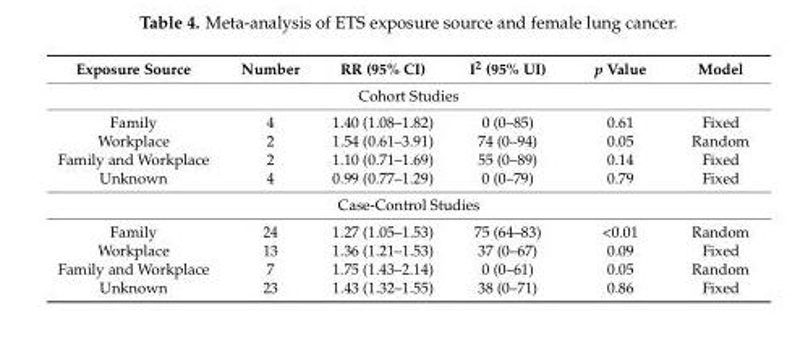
<table><thead><tr><td>Exposure Source</td><td>Number</td><td>RR (95% CI)</td><td>I<sup>2</sup> (95% UI)</td><td>p Value</td><td>Model</td></tr></thead><tbody><tr><td colspan="6">Cohort Studies</td></tr><tr><td>Family</td><td>4</td><td>1.40 (1.08–1.82)</td><td>0 (0–85)</td><td>0.61</td><td>Fixed</td></tr><tr><td>Workplace</td><td>2</td><td>1.54 (0.61–3.91)</td><td>74 (0–94)</td><td>0.05</td><td>Random</td></tr><tr><td>Family and Workplace</td><td>2</td><td>1.10 (0.71–1.69)</td><td>55 (0–89)</td><td>0.14</td><td>Fixed</td></tr><tr><td>Unknown</td><td>4</td><td>0.99 (0.77–1.29)</td><td>0 (0–79)</td><td>0.79</td><td>Fixed</td></tr><tr><td colspan="6">Case-Control Studies</td></tr><tr><td>Family</td><td>24</td><td>1.27 (1.05–1.53)</td><td>75 (64–83)</td><td>&lt;0.01</td><td>Random</td></tr><tr><td>Workplace</td><td>13</td><td>1.36 (1.21–1.53)</td><td>37 (0–67)</td><td>0.09</td><td>Fixed</td></tr><tr><td>Family and Workplace</td><td>7</td><td>1.75 (1.43–2.14)</td><td>0 (0–61)</td><td>0.05</td><td>Random</td></tr><tr><td>Unknown</td><td>23</td><td>1.43 (1.32–1.55)</td><td>38 (0–71)</td><td>0.86</td><td>Fixed</td></tr></tbody></table>